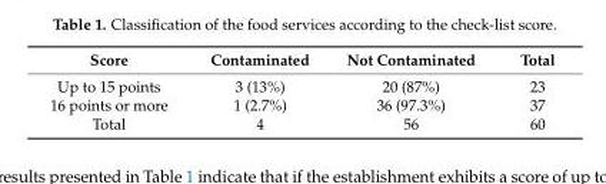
<table><thead><tr><td>Score</td><td>Contaminated</td><td>Not Contaminated</td><td>Total</td></tr></thead><tbody><tr><td>Up to 15 points</td><td>3 (13%)</td><td>20 (87%)</td><td>23</td></tr><tr><td>16 points or more</td><td>1 (2.7%)</td><td>36 (97.3%)</td><td>37</td></tr><tr><td>Total</td><td>4</td><td>56</td><td>60</td></tr></tbody></table>